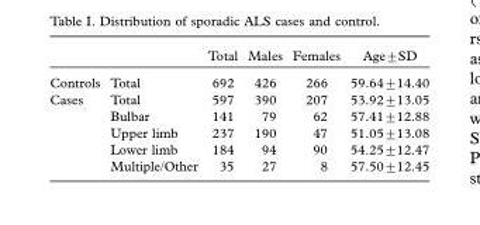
<table><thead><tr><td></td><td></td><td>Total</td><td>Males</td><td>Females</td><td>Age±SD</td></tr></thead><tbody><tr><td>Controls</td><td>Total</td><td>692</td><td>426</td><td>266</td><td>59.64±14.40</td></tr><tr><td rowspan="5">Cases</td><td>Total</td><td>597</td><td>390</td><td>207</td><td>53.92±13.05</td></tr><tr><td>Bulbar</td><td>141</td><td>79</td><td>62</td><td>57.41±12.88</td></tr><tr><td>Upper limb</td><td>237</td><td>190</td><td>47</td><td>51.05±13.08</td></tr><tr><td>Lower limb</td><td>184</td><td>94</td><td>90</td><td>54.25±12.47</td></tr><tr><td>Multiple/Other</td><td>35</td><td>27</td><td>8</td><td>57.50±12.45</td></tr></tbody></table>